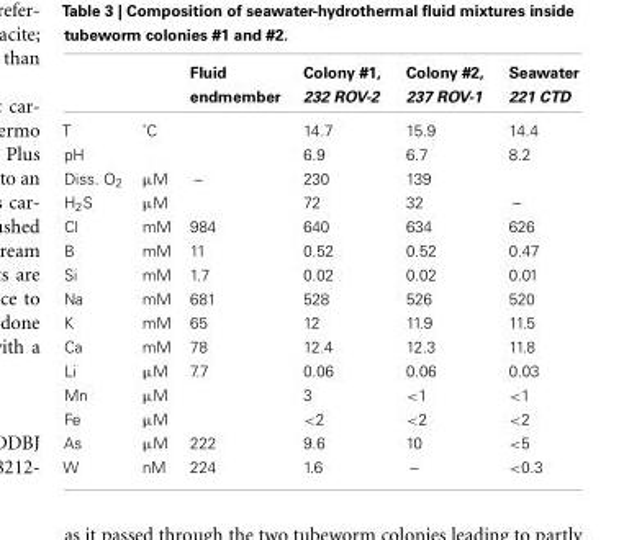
<table><thead><tr><td></td><td></td><td>Fluid endmember</td><td>Colony #1, 232 ROV-2</td><td>Colony #2, 237 ROV-1</td><td>Seawater 221 CTD</td></tr></thead><tbody><tr><td>T</td><td>˚C</td><td></td><td>14.7</td><td>15.9</td><td>14.4</td></tr><tr><td>pH</td><td></td><td></td><td>6.9</td><td>6.7</td><td>8.2</td></tr><tr><td>Diss. O<sub>2</sub></td><td>µM</td><td>–</td><td>230</td><td>139</td><td></td></tr><tr><td>H<sub>2</sub>S</td><td>µM</td><td></td><td>72</td><td>32</td><td>–</td></tr><tr><td>Cl</td><td>mM</td><td>984</td><td>640</td><td>634</td><td>626</td></tr><tr><td>B</td><td>mM</td><td>11</td><td>0.52</td><td>0.52</td><td>0.47</td></tr><tr><td>Si</td><td>mM</td><td>1.7</td><td>0.02</td><td>0.02</td><td>0.01</td></tr><tr><td>Na</td><td>mM</td><td>681</td><td>528</td><td>526</td><td>520</td></tr><tr><td>K</td><td>mM</td><td>65</td><td>12</td><td>11.9</td><td>11.5</td></tr><tr><td>Ca</td><td>mM</td><td>78</td><td>12.4</td><td>12.3</td><td>11.8</td></tr><tr><td>Li</td><td>µM</td><td>7.7</td><td>0.06</td><td>0.06</td><td>0.03</td></tr><tr><td>Mn</td><td>µM</td><td></td><td>3</td><td>&lt;1</td><td>&lt;1</td></tr><tr><td>Fe</td><td>µM</td><td></td><td>&lt;2</td><td>&lt;2</td><td>&lt;2</td></tr><tr><td>As</td><td>µM</td><td>222</td><td>9.6</td><td>10</td><td>&lt;5</td></tr><tr><td>W</td><td>nM</td><td>224</td><td>1.6</td><td>–</td><td>&lt;0.3</td></tr></tbody></table>